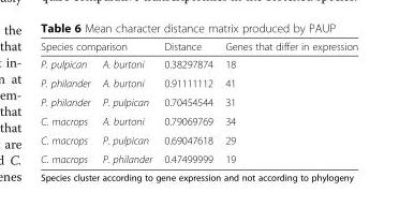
<table><thead><tr><td colspan="2">Species comparison</td><td rowspan="2">Distance 0.38297874</td><td rowspan="2">Genes that differ in expression 18</td></tr><tr><td>P. pulpican</td><td>A. burtoni</td></tr></thead><tbody><tr><td>P. philander</td><td>A. burtoni</td><td>0.91111112</td><td>41</td></tr><tr><td>P. philander</td><td>P. pulpican</td><td>0.70454544</td><td>31</td></tr><tr><td>C. macrops</td><td>A. burtoni</td><td>0.79069769</td><td>34</td></tr><tr><td>C. macrops</td><td>P. pulpican</td><td>0.69047618</td><td>29</td></tr><tr><td>C. macrops</td><td>P. philander</td><td>0.47499999</td><td>19</td></tr></tbody></table>